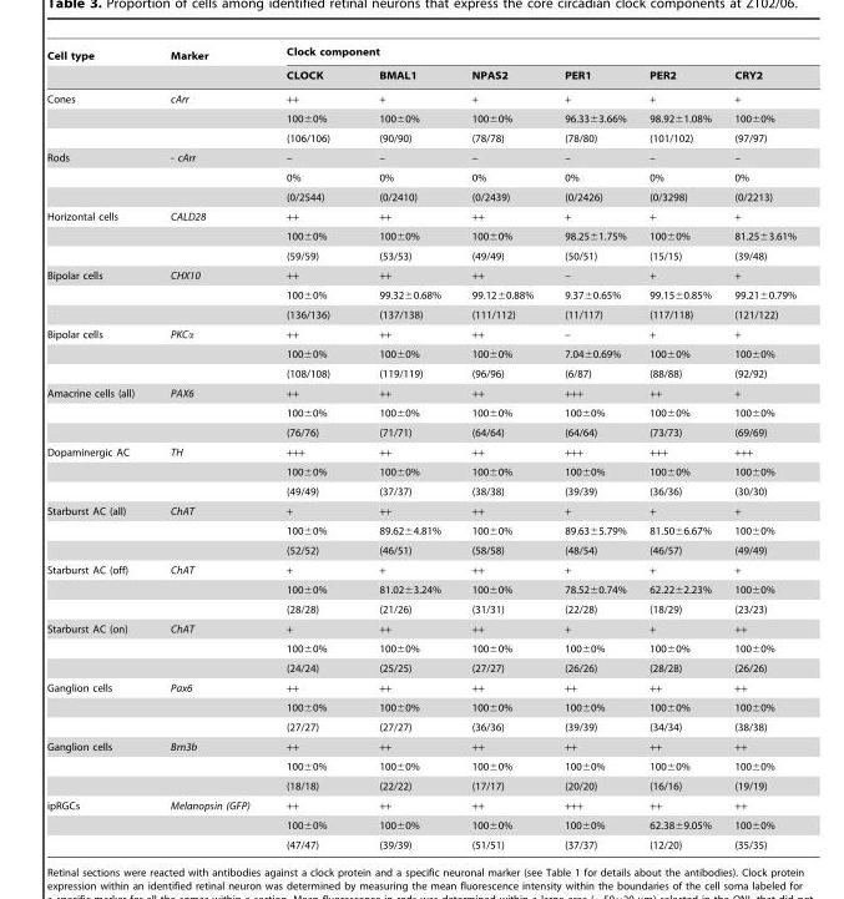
<table><thead><tr><td rowspan="2">Cell type</td><td rowspan="2">Marker</td><td colspan="6">Clock component</td></tr><tr><td>CLOCK</td><td>BMAL1</td><td>NPAS2</td><td>PER1</td><td>PER2</td><td>CRY2</td></tr></thead><tbody><tr><td rowspan="3">Cones</td><td>cArr</td><td>++</td><td>+</td><td>+</td><td>+</td><td>+</td><td>+</td></tr><tr><td></td><td>100±0%</td><td>100±0%</td><td>100±0%</td><td>96.33±3.66%</td><td>98.92±1.08%</td><td>100±0%</td></tr><tr><td></td><td>(106/106)</td><td>(90/90)</td><td>(78/78)</td><td>(78/80)</td><td>(101/102)</td><td>(97/97)</td></tr><tr><td rowspan="3">Rods</td><td>- cArr</td><td>–</td><td>–</td><td>–</td><td>–</td><td>–</td><td>–</td></tr><tr><td></td><td>0%</td><td>0%</td><td>0%</td><td>0%</td><td>0%</td><td>0%</td></tr><tr><td></td><td>(0/2544)</td><td>(0/2410)</td><td>(0/2439)</td><td>(0/2426)</td><td>(0/3298)</td><td>(0/2213)</td></tr><tr><td rowspan="3">Horizontal cells</td><td>CALD28</td><td>++</td><td>++</td><td>++</td><td>+</td><td>+</td><td>+</td></tr><tr><td></td><td>100±0%</td><td>100±0%</td><td>100±0%</td><td>98.25±1.75%</td><td>100±0%</td><td>81.25±3.61%</td></tr><tr><td></td><td>(59/59)</td><td>(53/53)</td><td>(49/49)</td><td>(50/51)</td><td>(15/15)</td><td>(39/48)</td></tr><tr><td rowspan="3">Bipolar cells</td><td>CHX10</td><td>++</td><td>++</td><td>++</td><td>–</td><td>+</td><td>+</td></tr><tr><td></td><td>100±0%</td><td>99.32±0.68%</td><td>99.12±0.88%</td><td>9.37±0.65%</td><td>99.15±0.85%</td><td>99.21±0.79%</td></tr><tr><td></td><td>(136/136)</td><td>(137/138)</td><td>(111/112)</td><td>(11/117)</td><td>(117/118)</td><td>(121/122)</td></tr><tr><td rowspan="3">Bipolar cells</td><td>PKCα</td><td>++</td><td>++</td><td>++</td><td>–</td><td>+</td><td>+</td></tr><tr><td></td><td>100±0%</td><td>100±0%</td><td>100±0%</td><td>7.04±0.69%</td><td>100±0%</td><td>100±0%</td></tr><tr><td></td><td>(108/108)</td><td>(119/119)</td><td>(96/96)</td><td>(6/87)</td><td>(88/88)</td><td>(92/92)</td></tr><tr><td rowspan="3">Amacrine cells (all)</td><td>PAX6</td><td>++</td><td>++</td><td>++</td><td>+++</td><td>++</td><td>+</td></tr><tr><td></td><td>100±0%</td><td>100±0%</td><td>100±0%</td><td>100±0%</td><td>100±0%</td><td>100±0%</td></tr><tr><td></td><td>(76/76)</td><td>(71/71)</td><td>(64/64)</td><td>(64/64)</td><td>(73/73)</td><td>(69/69)</td></tr><tr><td rowspan="3">Dopaminergic AC</td><td>TH</td><td>+++</td><td>++</td><td>++</td><td>+++</td><td>+++</td><td>+++</td></tr><tr><td></td><td>100±0%</td><td>100±0%</td><td>100±0%</td><td>100±0%</td><td>100±0%</td><td>100±0%</td></tr><tr><td></td><td>(49/49)</td><td>(37/37)</td><td>(38/38)</td><td>(39/39)</td><td>(36/36)</td><td>(30/30)</td></tr><tr><td rowspan="3">Starburst AC (all)</td><td>ChAT</td><td>+</td><td>++</td><td>++</td><td>+</td><td>+</td><td>+</td></tr><tr><td></td><td>100±0%</td><td>89.62±4.81%</td><td>100±0%</td><td>89.63±5.79%</td><td>81.50±6.67%</td><td>100±0%</td></tr><tr><td></td><td>(52/52)</td><td>(46/51)</td><td>(58/58)</td><td>(48/54)</td><td>(46/57)</td><td>(49/49)</td></tr><tr><td rowspan="3">Starburst AC (off)</td><td>ChAT</td><td>+</td><td>+</td><td>++</td><td>+</td><td>+</td><td>+</td></tr><tr><td></td><td>100±0%</td><td>81.02±3.24%</td><td>100±0%</td><td>78.52±0.74%</td><td>62.22±2.23%</td><td>100±0%</td></tr><tr><td></td><td>(28/28)</td><td>(21/26)</td><td>(31/31)</td><td>(22/28)</td><td>(18/29)</td><td>(23/23)</td></tr><tr><td rowspan="3">Starburst AC (on)</td><td>ChAT</td><td>+</td><td>++</td><td>++</td><td>+</td><td>+</td><td>++</td></tr><tr><td></td><td>100±0%</td><td>100±0%</td><td>100±0%</td><td>100±0%</td><td>100±0%</td><td>100±0%</td></tr><tr><td></td><td>(24/24)</td><td>(25/25)</td><td>(27/27)</td><td>(26/26)</td><td>(28/28)</td><td>(26/26)</td></tr><tr><td rowspan="3">Ganglion cells</td><td>Pax6</td><td>++</td><td>++</td><td>++</td><td>++</td><td>++</td><td>++</td></tr><tr><td></td><td>100±0%</td><td>100±0%</td><td>100±0%</td><td>100±0%</td><td>100±0%</td><td>100±0%</td></tr><tr><td></td><td>(27/27)</td><td>(27/27)</td><td>(36/36)</td><td>(39/39)</td><td>(34/34)</td><td>(38/38)</td></tr><tr><td rowspan="3">Ganglion cells</td><td>Brn3b</td><td>++</td><td>++</td><td>++</td><td>++</td><td>++</td><td>++</td></tr><tr><td></td><td>100±0%</td><td>100±0%</td><td>100±0%</td><td>100±0%</td><td>100±0%</td><td>100±0%</td></tr><tr><td></td><td>(18/18)</td><td>(22/22)</td><td>(17/17)</td><td>(20/20)</td><td>(16/16)</td><td>(19/19)</td></tr><tr><td rowspan="3">ipRGCs</td><td>Melanopsin (GFP)</td><td>++</td><td>++</td><td>++</td><td>+++</td><td>++</td><td>++</td></tr><tr><td></td><td>100±0%</td><td>100±0%</td><td>100±0%</td><td>100±0%</td><td>62.38±9.05%</td><td>100±0%</td></tr><tr><td></td><td>(47/47)</td><td>(39/39)</td><td>(51/51)</td><td>(37/37)</td><td>(12/20)</td><td>(35/35)</td></tr></tbody></table>